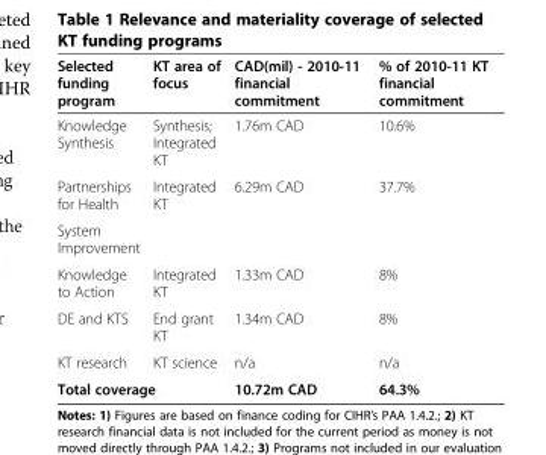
<table><thead><tr><td>Selected funding program</td><td>KT area of focus</td><td>CAD(mil) - 2010-11 financial commitment</td><td>% of 2010-11 KT financial commitment</td></tr></thead><tbody><tr><td>Knowledge Synthesis</td><td>Synthesis; Integrated KT</td><td>1.76m CAD</td><td>10.6%</td></tr><tr><td>Partnerships for Health</td><td>Integrated KT</td><td>6.29m CAD</td><td>37.7%</td></tr><tr><td colspan="4">System Improvement</td></tr><tr><td>Knowledge to Action</td><td>Integrated KT</td><td>1.33m CAD</td><td>8%</td></tr><tr><td>DE and KTS</td><td>End grant KT</td><td>1.34m CAD</td><td>8%</td></tr><tr><td>KT research</td><td>KT science</td><td>n/a</td><td>n/a</td></tr><tr><td colspan="2">Total coverage</td><td>10.72m CAD</td><td>64.3%</td></tr></tbody></table>